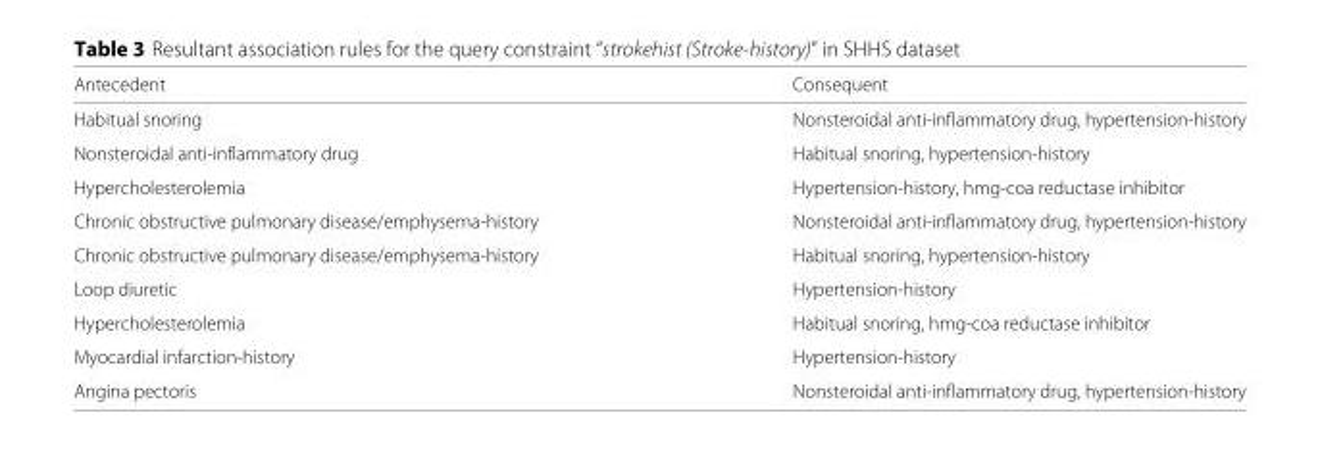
<table><thead><tr><td>Antecedent</td><td>Consequent</td></tr></thead><tbody><tr><td>Habitual snoring</td><td>Nonsteroidal anti-inflammatory drug, hypertension-history</td></tr><tr><td>Nonsteroidal anti-inflammatory drug</td><td>Habitual snoring, hypertension-history</td></tr><tr><td>Hypercholesterolemia</td><td>Hypertension-history, hmg-coa reductase inhibitor</td></tr><tr><td>Chronic obstructive pulmonary disease/emphysema-history</td><td>Nonsteroidal anti-inflammatory drug, hypertension-history</td></tr><tr><td>Chronic obstructive pulmonary disease/emphysema-history</td><td>Habitual snoring, hypertension-history</td></tr><tr><td>Loop diuretic</td><td>Hypertension-history</td></tr><tr><td>Hypercholesterolemia</td><td>Habitual snoring, hmg-coa reductase inhibitor</td></tr><tr><td>Myocardial infarction-history</td><td>Hypertension-history</td></tr><tr><td>Angina pectoris</td><td>Nonsteroidal anti-inflammatory drug, hypertension-history</td></tr></tbody></table>